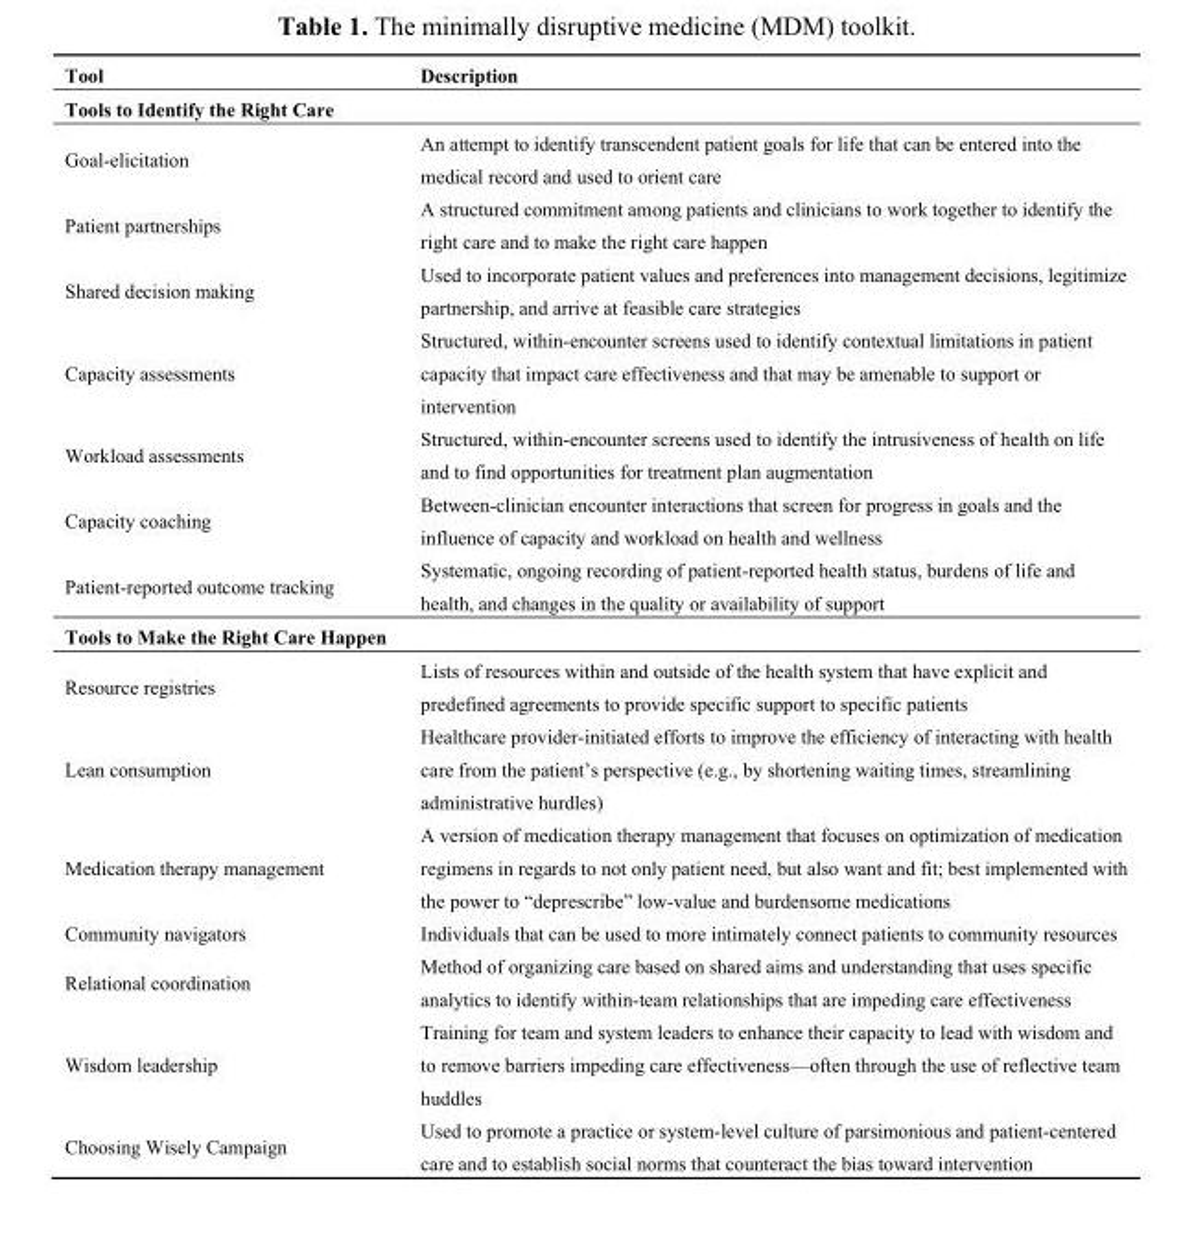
<table><thead><tr><td>Tool</td><td>Description</td></tr></thead><tbody><tr><td colspan="2">Tools to Identify the Right Care</td></tr><tr><td>Goal-elicitation</td><td>An attempt to identify transcendent patient goals for life that can be entered into the medical record and used to orient care</td></tr><tr><td>Patient partnerships</td><td>A structured commitment among patients and clinicians to work together to identify the right care and to make the right care happen</td></tr><tr><td>Shared decision making</td><td>Used to incorporate patient values and preferences into management decisions, legitimize partnership, and arrive at feasible care strategies</td></tr><tr><td>Capacity assessments</td><td>Structured, within-encounter screens used to identify contextual limitations in patient capacity that impact care effectiveness and that may be amenable to support or intervention</td></tr><tr><td>Workload assessments</td><td>Structured, within-encounter screens used to identify the intrusiveness of health on life and to find opportunities for treatment plan augmentation</td></tr><tr><td>Capacity coaching</td><td>Between-clinician encounter interactions that screen for progress in goals and the influence of capacity and workload on health and wellness</td></tr><tr><td>Patient-reported outcome tracking</td><td>Systematic, ongoing recording of patient-reported health status, burdens of life and health, and changes in the quality or availability of support</td></tr><tr><td colspan="2">Tools to Make the Right Care Happen</td></tr><tr><td>Resource registries</td><td>Lists of resources within and outside of the health system that have explicit and predefined agreements to provide specific support to specific patients</td></tr><tr><td>Lean consumption</td><td>Healthcare provider-initiated efforts to improve the efficiency of interacting with health care from the patient’s perspective (e.g., by shortening waiting times, streamlining administrative hurdles)</td></tr><tr><td>Medication therapy management</td><td>A version of medication therapy management that focuses on optimization of medication regimens in regards to not only patient need, but also want and fit; best implemented with the power to “deprescribe” low-value and burdensome medications</td></tr><tr><td>Community navigators</td><td>Individuals that can be used to more intimately connect patients to community resources</td></tr><tr><td>Relational coordination</td><td>Method of organizing care based on shared aims and understanding that uses specific analytics to identify within-team relationships that are impeding care effectiveness</td></tr><tr><td>Wisdom leadership</td><td>Training for team and system leaders to enhance their capacity to lead with wisdom and to remove barriers impeding care effectiveness—often through the use of reflective team huddles</td></tr><tr><td>Choosing Wisely Campaign</td><td>Used to promote a practice or system-level culture of parsimonious and patient-centered care and to establish social norms that counteract the bias toward intervention</td></tr></tbody></table>